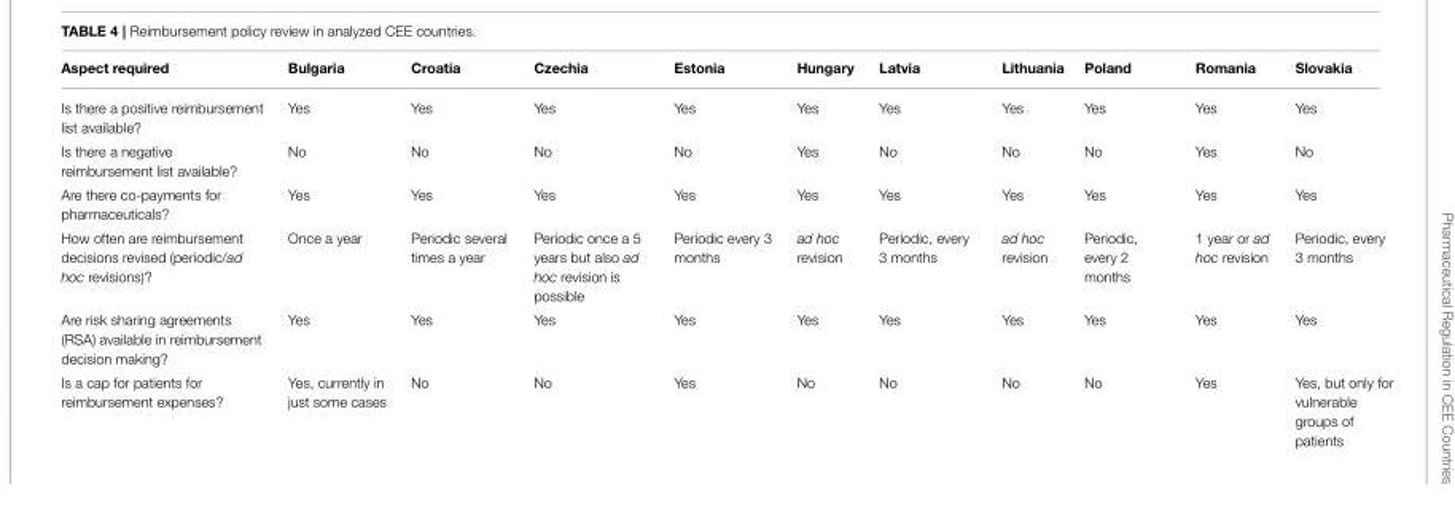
<table><thead><tr><td>Aspect required</td><td>Bulgaria</td><td>Croatia</td><td>Czechia</td><td>Estonia</td><td>Hungary</td><td>Latvia</td><td>Lithuania</td><td>Poland</td><td>Romania</td><td>Slovakia</td></tr></thead><tbody><tr><td>Is there a positive reimbursement list available?</td><td>Yes</td><td>Yes</td><td>Yes</td><td>Yes</td><td>Yes</td><td>Yes</td><td>Yes</td><td>Yes</td><td>Yes</td><td>Yes</td></tr><tr><td>Is there a negative reimbursement list available?</td><td>No</td><td>No</td><td>No</td><td>No</td><td>Yes</td><td>No</td><td>No</td><td>No</td><td>Yes</td><td>No</td></tr><tr><td>Are there co-payments for pharmaceuticals?</td><td>Yes</td><td>Yes</td><td>Yes</td><td>Yes</td><td>Yes</td><td>Yes</td><td>Yes</td><td>Yes</td><td>Yes</td><td>Yes</td></tr><tr><td>How often are reimbursement decisions revised (periodic/ad hoc revisions)?</td><td>Once a year</td><td>Periodic several times a year</td><td>Periodic once a 5 years but also ad hoc revision is possible</td><td>Periodic every 3 months</td><td>ad hoc revision</td><td>Periodic, every 3 months</td><td>ad hoc revision</td><td>Periodic, every 2 months</td><td>1 year or ad hoc revision</td><td>Periodic, every 3 months</td></tr><tr><td>Are risk sharing agreements (RSA) available in reimbursement decision making?</td><td>Yes</td><td>Yes</td><td>Yes</td><td>Yes</td><td>Yes</td><td>Yes</td><td>Yes</td><td>Yes</td><td>Yes</td><td>Yes</td></tr><tr><td>Is a cap for patients for reimbursement expenses?</td><td>Yes, currently in just some cases</td><td>No</td><td>No</td><td>Yes</td><td>No</td><td>No</td><td>No</td><td>No</td><td>Yes</td><td>Yes, but only for vulnerable groups of patients</td></tr></tbody></table>